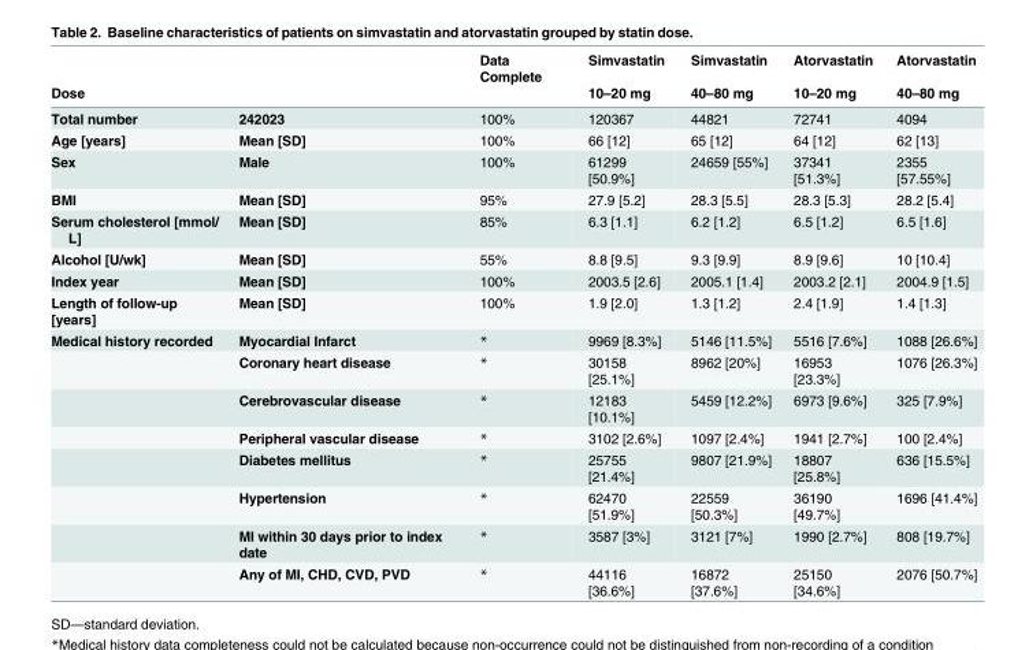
<table><thead><tr><td rowspan="2">Dose</td><td rowspan="2"></td><td rowspan="2">Data Complete</td><td rowspan="2">Simvastatin 10–20 mg</td><td rowspan="2">Simvastatin 40–80 mg</td><td rowspan="2">Atorvastatin 10–20 mg</td><td rowspan="2">Atorvastatin 40–80 mg</td></tr><tr></tr></thead><tbody><tr><td>Total number</td><td>242023</td><td>100%</td><td>120367</td><td>44821</td><td>72741</td><td>4094</td></tr><tr><td>Age [years]</td><td>Mean [SD]</td><td>100%</td><td>66 [12]</td><td>65 [12]</td><td>64 [12]</td><td>62 [13]</td></tr><tr><td>Sex</td><td>Male</td><td>100%</td><td>61299 [50.9%]</td><td>24659 [55%]</td><td>37341 [51.3%]</td><td>2355 [57.55%]</td></tr><tr><td>BMI</td><td>Mean [SD]</td><td>95%</td><td>27.9 [5.2]</td><td>28.3 [5.5]</td><td>28.3 [5.3]</td><td>28.2 [5.4]</td></tr><tr><td>Serum cholesterol [mmol/ L]</td><td>Mean [SD]</td><td>85%</td><td>6.3 [1.1]</td><td>6.2 [1.2]</td><td>6.5 [1.2]</td><td>6.5 [1.6]</td></tr><tr><td>Alcohol [U/wk]</td><td>Mean [SD]</td><td>55%</td><td>8.8 [9.5]</td><td>9.3 [9.9]</td><td>8.9 [9.6]</td><td>10 [10.4]</td></tr><tr><td>Index year</td><td>Mean [SD]</td><td>100%</td><td>2003.5 [2.6]</td><td>2005.1 [1.4]</td><td>2003.2 [2.1]</td><td>2004.9 [1.5]</td></tr><tr><td>Length of follow-up [years]</td><td>Mean [SD]</td><td>100%</td><td>1.9 [2.0]</td><td>1.3 [1.2]</td><td>2.4 [1.9]</td><td>1.4 [1.3]</td></tr><tr><td rowspan="8">Medical history recorded</td><td>Myocardial Infarct</td><td>*</td><td>9969 [8.3%]</td><td>5146 [11.5%]</td><td>5516 [7.6%]</td><td>1088 [26.6%]</td></tr><tr><td>Coronary heart disease</td><td>*</td><td>30158 [25.1%]</td><td>8962 [20%]</td><td>16953 [23.3%]</td><td>1076 [26.3%]</td></tr><tr><td>Cerebrovascular disease</td><td>*</td><td>12183 [10.1%]</td><td>5459 [12.2%]</td><td>6973 [9.6%]</td><td>325 [7.9%]</td></tr><tr><td>Peripheral vascular disease</td><td>*</td><td>3102 [2.6%]</td><td>1097 [2.4%]</td><td>1941 [2.7%]</td><td>100 [2.4%]</td></tr><tr><td>Diabetes mellitus</td><td>*</td><td>25755 [21.4%]</td><td>9807 [21.9%]</td><td>18807 [25.8%]</td><td>636 [15.5%]</td></tr><tr><td>Hypertension</td><td>*</td><td>62470 [51.9%]</td><td>22559 [50.3%]</td><td>36190 [49.7%]</td><td>1696 [41.4%]</td></tr><tr><td>MI within 30 days prior to index date</td><td>*</td><td>3587 [3%]</td><td>3121 [7%]</td><td>1990 [2.7%]</td><td>808 [19.7%]</td></tr><tr><td>Any of MI, CHD, CVD, PVD</td><td>*</td><td>44116 [36.6%]</td><td>16872 [37.6%]</td><td>25150 [34.6%]</td><td>2076 [50.7%]</td></tr></tbody></table>